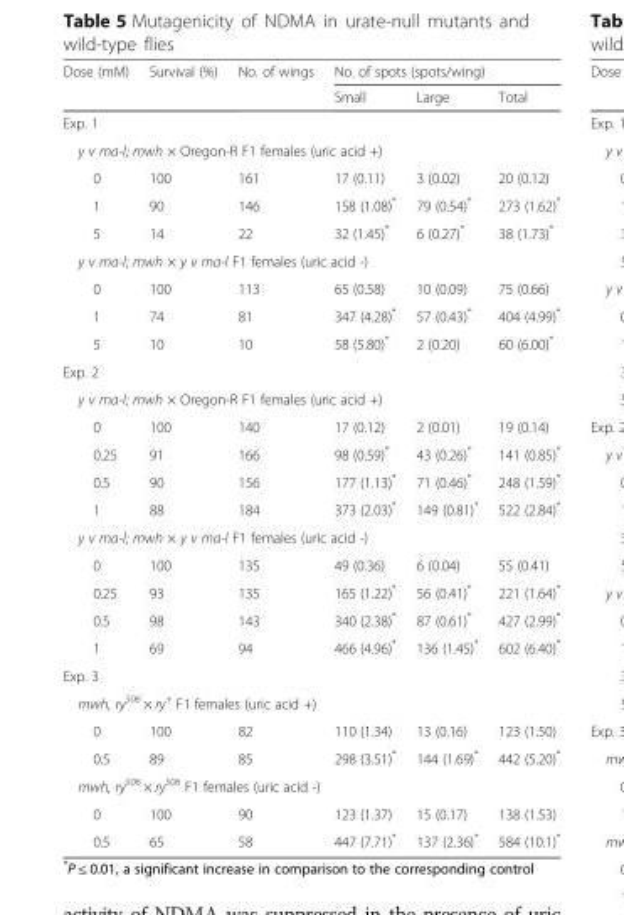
<table><thead><tr><td rowspan="2">Dose (mM)</td><td rowspan="2">Survival (%)</td><td rowspan="2">No. of wings</td><td colspan="3">No. of spots (spots/wing)</td></tr><tr><td>Small</td><td>Large</td><td>Total</td></tr></thead><tbody><tr><td colspan="6">Exp. 1</td></tr><tr><td colspan="6">y v ma-l; mwh × Oregon-R F1 females (uric acid +)</td></tr><tr><td>0</td><td>100</td><td>161</td><td>17 (0.11)</td><td>3 (0.02)</td><td>20 (0.12)</td></tr><tr><td>1</td><td>90</td><td>146</td><td>158 (1.08)*</td><td>79 (0.54)*</td><td>273 (1.62)*</td></tr><tr><td>5</td><td>14</td><td>22</td><td>32 (1.45)*</td><td>6 (0.27)*</td><td>38 (1.73)*</td></tr><tr><td colspan="6">y v ma-l; mwh × y v ma-l F1 females (uric acid -)</td></tr><tr><td>0</td><td>100</td><td>113</td><td>65 (0.58)</td><td>10 (0.09)</td><td>75 (0.66)</td></tr><tr><td>1</td><td>74</td><td>81</td><td>347 (4.28)*</td><td>57 (0.43)*</td><td>404 (4.99)*</td></tr><tr><td>5</td><td>10</td><td>10</td><td>58 (5.80)*</td><td>2 (0.20)</td><td>60 (6.00)*</td></tr><tr><td colspan="6">Exp. 2</td></tr><tr><td colspan="6">y v ma-l; mwh × Oregon-R F1 females (uric acid +)</td></tr><tr><td>0</td><td>100</td><td>140</td><td>17 (0.12)</td><td>2 (0.01)</td><td>19 (0.14)</td></tr><tr><td>0.25</td><td>91</td><td>166</td><td>98 (0.59)*</td><td>43 (0.26)*</td><td>141 (0.85)*</td></tr><tr><td>0.5</td><td>90</td><td>156</td><td>177 (1.13)*</td><td>71 (0.46)*</td><td>248 (1.59)*</td></tr><tr><td>1</td><td>88</td><td>184</td><td>373 (2.03)*</td><td>149 (0.81)*</td><td>522 (2.84)*</td></tr><tr><td colspan="6">y v ma-l; mwh × y v ma-l F1 females (uric acid -)</td></tr><tr><td>0</td><td>100</td><td>135</td><td>49 (0.36)</td><td>6 (0.04)</td><td>55 (0.41)</td></tr><tr><td>0.25</td><td>93</td><td>135</td><td>165 (1.22)*</td><td>56 (0.41)*</td><td>221 (1.64)*</td></tr><tr><td>0.5</td><td>98</td><td>143</td><td>340 (2.38)*</td><td>87 (0.61)*</td><td>427 (2.99)*</td></tr><tr><td>1</td><td>69</td><td>94</td><td>466 (4.96)*</td><td>136 (1.45)*</td><td>602 (6.40)*</td></tr><tr><td colspan="6">Exp. 3</td></tr><tr><td colspan="6">mwh, ry<sup>506</sup> × ry<sup>+</sup> F1 females (uric acid +)</td></tr><tr><td>0</td><td>100</td><td>82</td><td>110 (1.34)</td><td>13 (0.16)</td><td>123 (1.50)</td></tr><tr><td>0.5</td><td>89</td><td>85</td><td>298 (3.51)*</td><td>144 (1.69)*</td><td>442 (5.20)*</td></tr><tr><td colspan="6">mwh, ry<sup>506</sup> × ry<sup>506</sup> F1 females (uric acid -)</td></tr><tr><td>0</td><td>100</td><td>90</td><td>123 (1.37)</td><td>15 (0.17)</td><td>138 (1.53)</td></tr><tr><td>0.5</td><td>65</td><td>58</td><td>447 (7.71)*</td><td>137 (2.36)*</td><td>584 (10.1)*</td></tr></tbody></table>